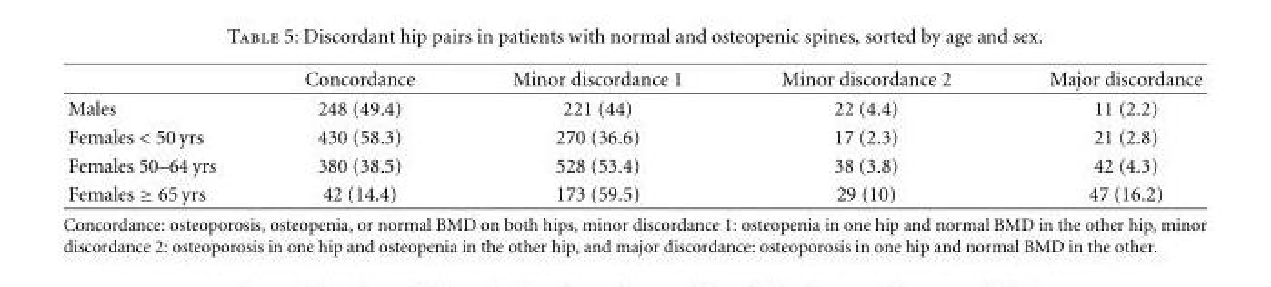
<table><thead><tr><td></td><td>Concordance</td><td>Minor discordance 1</td><td>Minor discordance 2</td><td>Major discordance</td></tr></thead><tbody><tr><td>Males</td><td>248 (49.4)</td><td>221 (44)</td><td>22 (4.4)</td><td>11 (2.2)</td></tr><tr><td>Females &lt; 50 yrs</td><td>430 (58.3)</td><td>270 (36.6)</td><td>17 (2.3)</td><td>21 (2.8)</td></tr><tr><td>Females 50–64 yrs</td><td>380 (38.5)</td><td>528 (53.4)</td><td>38 (3.8)</td><td>42 (4.3)</td></tr><tr><td>Females ≥ 65 yrs</td><td>42 (14.4)</td><td>173 (59.5)</td><td>29 (10)</td><td>47 (16.2)</td></tr></tbody></table>